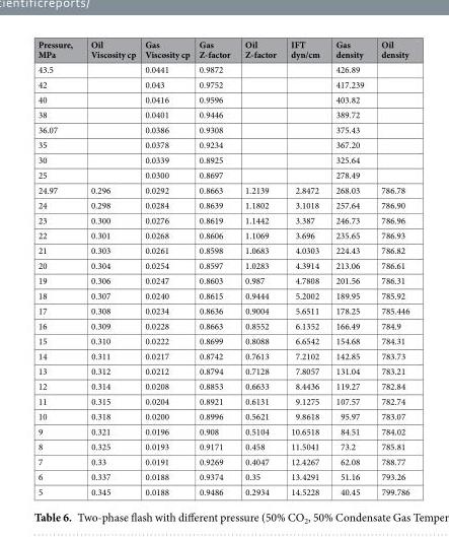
<table><thead><tr><td>Pressure, MPa</td><td>Oil Viscosity cp</td><td>Gas Viscosity cp</td><td>Gas Z-factor</td><td>Oil Z-factor</td><td>IFT dyn/cm</td><td>Gas density</td><td>Oil density</td></tr></thead><tbody><tr><td>43.5</td><td></td><td>0.0441</td><td>0.9872</td><td></td><td></td><td>426.89</td><td></td></tr><tr><td>42</td><td></td><td>0.043</td><td>0.9752</td><td></td><td></td><td>417.239</td><td></td></tr><tr><td>40</td><td></td><td>0.0416</td><td>0.9596</td><td></td><td></td><td>403.82</td><td></td></tr><tr><td>38</td><td></td><td>0.0401</td><td>0.9446</td><td></td><td></td><td>389.72</td><td></td></tr><tr><td>36.07</td><td></td><td>0.0386</td><td>0.9308</td><td></td><td></td><td>375.43</td><td></td></tr><tr><td>35</td><td></td><td>0.0378</td><td>0.9234</td><td></td><td></td><td>367.20</td><td></td></tr><tr><td>30</td><td></td><td>0.0339</td><td>0.8925</td><td></td><td></td><td>325.64</td><td></td></tr><tr><td>25</td><td></td><td>0.0300</td><td>0.8697</td><td></td><td></td><td>278.49</td><td></td></tr><tr><td>24.97</td><td>0.296</td><td>0.0292</td><td>0.8663</td><td>1.2139</td><td>2.8472</td><td>268.03</td><td>786.78</td></tr><tr><td>24</td><td>0.298</td><td>0.0284</td><td>0.8639</td><td>1.1802</td><td>3.1018</td><td>257.64</td><td>786.90</td></tr><tr><td>23</td><td>0.300</td><td>0.0276</td><td>0.8619</td><td>1.1442</td><td>3.387</td><td>246.73</td><td>786.96</td></tr><tr><td>22</td><td>0.301</td><td>0.0268</td><td>0.8606</td><td>1.1069</td><td>3.696</td><td>235.65</td><td>786.93</td></tr><tr><td>21</td><td>0.303</td><td>0.0261</td><td>0.8598</td><td>1.0683</td><td>4.0303</td><td>224.43</td><td>786.82</td></tr><tr><td>20</td><td>0.304</td><td>0.0254</td><td>0.8597</td><td>1.0283</td><td>4.3914</td><td>213.06</td><td>786.61</td></tr><tr><td>19</td><td>0.306</td><td>0.0247</td><td>0.8603</td><td>0.987</td><td>4.7808</td><td>201.56</td><td>786.31</td></tr><tr><td>18</td><td>0.307</td><td>0.0240</td><td>0.8615</td><td>0.9444</td><td>5.2002</td><td>189.95</td><td>785.92</td></tr><tr><td>17</td><td>0.308</td><td>0.0234</td><td>0.8636</td><td>0.9004</td><td>5.6511</td><td>178.25</td><td>785.446</td></tr><tr><td>16</td><td>0.309</td><td>0.0228</td><td>0.8663</td><td>0.8552</td><td>6.1352</td><td>166.49</td><td>784.9</td></tr><tr><td>15</td><td>0.310</td><td>0.0222</td><td>0.8699</td><td>0.8088</td><td>6.6542</td><td>154.68</td><td>784.31</td></tr><tr><td>14</td><td>0.311</td><td>0.0217</td><td>0.8742</td><td>0.7613</td><td>7.2102</td><td>142.85</td><td>783.73</td></tr><tr><td>13</td><td>0.312</td><td>0.0212</td><td>0.8794</td><td>0.7128</td><td>7.8057</td><td>131.04</td><td>783.21</td></tr><tr><td>12</td><td>0.314</td><td>0.0208</td><td>0.8853</td><td>0.6633</td><td>8.4436</td><td>119.27</td><td>782.84</td></tr><tr><td>11</td><td>0.315</td><td>0.0204</td><td>0.8921</td><td>0.6131</td><td>9.1275</td><td>107.57</td><td>782.74</td></tr><tr><td>10</td><td>0.318</td><td>0.0200</td><td>0.8996</td><td>0.5621</td><td>9.8618</td><td>95.97</td><td>783.07</td></tr><tr><td>9</td><td>0.321</td><td>0.0196</td><td>0.908</td><td>0.5104</td><td>10.6518</td><td>84.51</td><td>784.02</td></tr><tr><td>8</td><td>0.325</td><td>0.0193</td><td>0.9171</td><td>0.458</td><td>11.5041</td><td>73.2</td><td>785.81</td></tr><tr><td>7</td><td>0.33</td><td>0.0191</td><td>0.9269</td><td>0.4047</td><td>12.4267</td><td>62.08</td><td>788.77</td></tr><tr><td>6</td><td>0.337</td><td>0.0188</td><td>0.9374</td><td>0.35</td><td>13.4291</td><td>51.16</td><td>793.26</td></tr><tr><td>5</td><td>0.345</td><td>0.0188</td><td>0.9486</td><td>0.2934</td><td>14.5228</td><td>40.45</td><td>799.786</td></tr></tbody></table>